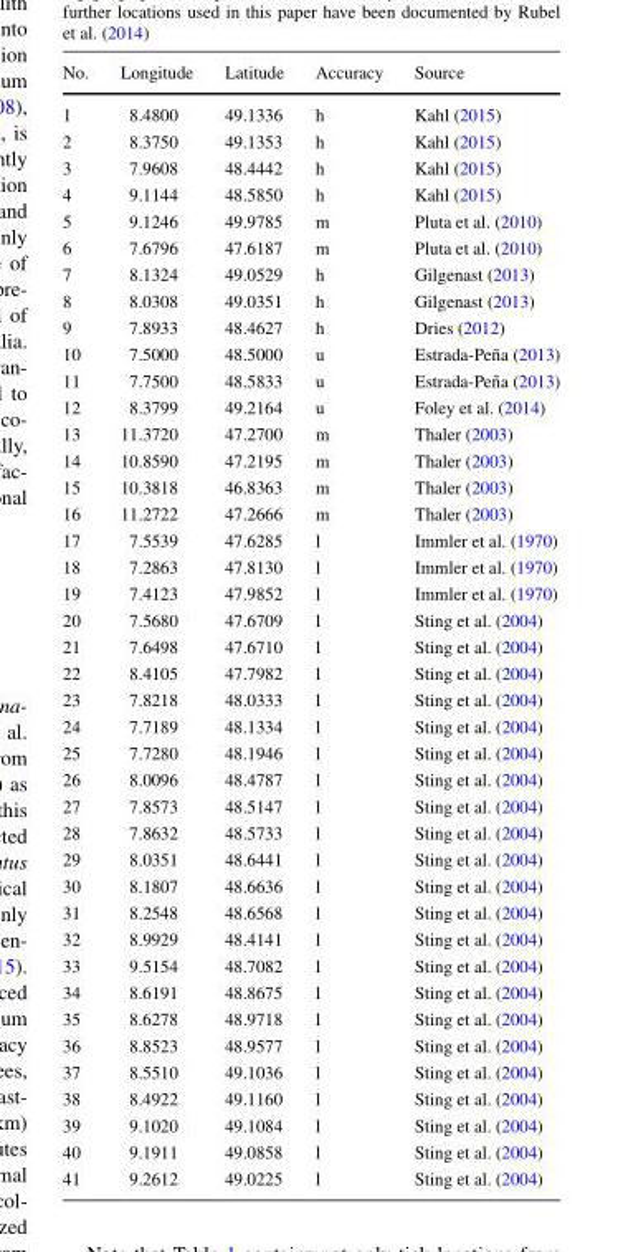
<table><thead><tr><td>No.</td><td>Longitude</td><td>Latitude</td><td>Accuracy</td><td>Source</td></tr></thead><tbody><tr><td>1</td><td>8.4800</td><td>49.1336</td><td>h</td><td>Kahl (2015)</td></tr><tr><td>2</td><td>8.3750</td><td>49.1353</td><td>h</td><td>Kahl (2015)</td></tr><tr><td>3</td><td>7.9608</td><td>48.4442</td><td>h</td><td>Kahl (2015)</td></tr><tr><td>4</td><td>9.1144</td><td>48.5850</td><td>h</td><td>Kahl (2015)</td></tr><tr><td>5</td><td>9.1246</td><td>49.9785</td><td>m</td><td>Pluta et al. (2010)</td></tr><tr><td>6</td><td>7.6796</td><td>47.6187</td><td>m</td><td>Pluta et al. (2010)</td></tr><tr><td>7</td><td>8.1324</td><td>49.0529</td><td>h</td><td>Gilgenast (2013)</td></tr><tr><td>8</td><td>8.0308</td><td>49.0351</td><td>h</td><td>Gilgenast (2013)</td></tr><tr><td>9</td><td>7.8933</td><td>48.4627</td><td>h</td><td>Dries (2012)</td></tr><tr><td>10</td><td>7.5000</td><td>48.5000</td><td>u</td><td>Estrada-Pe˜na (2013)</td></tr><tr><td>11</td><td>7.7500</td><td>48.5833</td><td>u</td><td>Estrada-Pe˜na (2013)</td></tr><tr><td>12</td><td>8.3799</td><td>49.2164</td><td>u</td><td>Foley et al. (2014)</td></tr><tr><td>13</td><td>11.3720</td><td>47.2700</td><td>m</td><td>Thaler (2003)</td></tr><tr><td>14</td><td>10.8590</td><td>47.2195</td><td>m</td><td>Thaler (2003)</td></tr><tr><td>15</td><td>10.3818</td><td>46.8363</td><td>m</td><td>Thaler (2003)</td></tr><tr><td>16</td><td>11.2722</td><td>47.2666</td><td>m</td><td>Thaler (2003)</td></tr><tr><td>17</td><td>7.5539</td><td>47.6285</td><td>l</td><td>Immler et al. (1970)</td></tr><tr><td>18</td><td>7.2863</td><td>47.8130</td><td>l</td><td>Immler et al. (1970)</td></tr><tr><td>19</td><td>7.4123</td><td>47.9852</td><td>l</td><td>Immler et al. (1970)</td></tr><tr><td>20</td><td>7.5680</td><td>47.6709</td><td>l</td><td>Sting et al. (2004)</td></tr><tr><td>21</td><td>7.6498</td><td>47.6710</td><td>l</td><td>Sting et al. (2004)</td></tr><tr><td>22</td><td>8.4105</td><td>47.7982</td><td>l</td><td>Sting et al. (2004)</td></tr><tr><td>23</td><td>7.8218</td><td>48.0333</td><td>l</td><td>Sting et al. (2004)</td></tr><tr><td>24</td><td>7.7189</td><td>48.1334</td><td>l</td><td>Sting et al. (2004)</td></tr><tr><td>25</td><td>7.7280</td><td>48.1946</td><td>l</td><td>Sting et al. (2004)</td></tr><tr><td>26</td><td>8.0096</td><td>48.4787</td><td>l</td><td>Sting et al. (2004)</td></tr><tr><td>27</td><td>7.8573</td><td>48.5147</td><td>l</td><td>Sting et al. (2004)</td></tr><tr><td>28</td><td>7.8632</td><td>48.5733</td><td>l</td><td>Sting et al. (2004)</td></tr><tr><td>29</td><td>8.0351</td><td>48.6441</td><td>l</td><td>Sting et al. (2004)</td></tr><tr><td>30</td><td>8.1807</td><td>48.6636</td><td>l</td><td>Sting et al. (2004)</td></tr><tr><td>31</td><td>8.2548</td><td>48.6568</td><td>l</td><td>Sting et al. (2004)</td></tr><tr><td>32</td><td>8.9929</td><td>48.4141</td><td>l</td><td>Sting et al. (2004)</td></tr><tr><td>33</td><td>9.5154</td><td>48.7082</td><td>l</td><td>Sting et al. (2004)</td></tr><tr><td>34</td><td>8.6191</td><td>48.8675</td><td>l</td><td>Sting et al. (2004)</td></tr><tr><td>35</td><td>8.6278</td><td>48.9718</td><td>l</td><td>Sting et al. (2004)</td></tr><tr><td>36</td><td>8.8523</td><td>48.9577</td><td>l</td><td>Sting et al. (2004)</td></tr><tr><td>37</td><td>8.5510</td><td>49.1036</td><td>l</td><td>Sting et al. (2004)</td></tr><tr><td>38</td><td>8.4922</td><td>49.1160</td><td>l</td><td>Sting et al. (2004)</td></tr><tr><td>39</td><td>9.1020</td><td>49.1084</td><td>l</td><td>Sting et al. (2004)</td></tr><tr><td>40</td><td>9.1911</td><td>49.0858</td><td>l</td><td>Sting et al. (2004)</td></tr><tr><td>41</td><td>9.2612</td><td>49.0225</td><td>l</td><td>Sting et al. (2004)</td></tr></tbody></table>